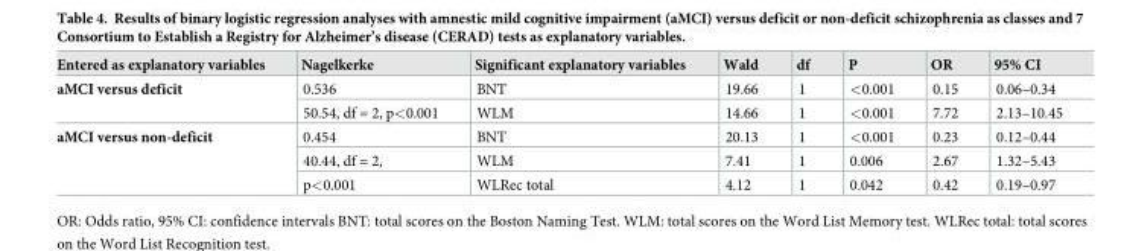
<table><thead><tr><td>Entered as explanatory variables</td><td>Nagelkerke</td><td>Significant explanatory variables</td><td>Wald</td><td>df</td><td>P</td><td>OR</td><td>95% CI</td></tr></thead><tbody><tr><td rowspan="2">aMCI versus deficit</td><td>0.536</td><td>BNT</td><td>19.66</td><td>1</td><td>&lt;0.001</td><td>0.15</td><td>0.06–0.34</td></tr><tr><td>50.54, df = 2, p&lt;0.001</td><td>WLM</td><td>14.66</td><td>1</td><td>&lt;0.001</td><td>7.72</td><td>2.13–10.45</td></tr><tr><td rowspan="3">aMCI versus non-deficit</td><td>0.454</td><td>BNT</td><td>20.13</td><td>1</td><td>&lt;0.001</td><td>0.23</td><td>0.12–0.44</td></tr><tr><td>40.44, df = 2,</td><td>WLM</td><td>7.41</td><td>1</td><td>0.006</td><td>2.67</td><td>1.32–5.43</td></tr><tr><td>p&lt;0.001</td><td>WLRec total</td><td>4.12</td><td>1</td><td>0.042</td><td>0.42</td><td>0.19–0.97</td></tr></tbody></table>